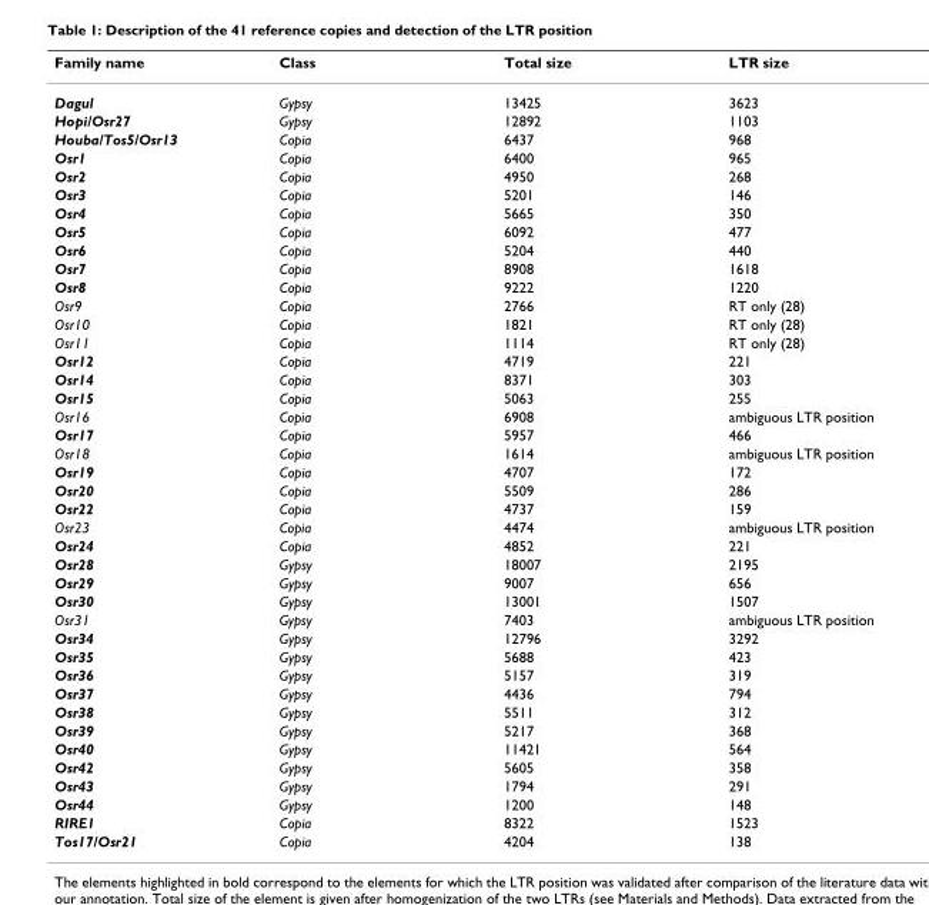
<table><thead><tr><td>Family name</td><td>Class</td><td>Total size</td><td>LTR size</td></tr></thead><tbody><tr><td>Dagul</td><td>Gypsy</td><td>13425</td><td>3623</td></tr><tr><td>Hopi/Osr27</td><td>Gypsy</td><td>12892</td><td>1103</td></tr><tr><td>Houba/Tos5/Osr13</td><td>Copia</td><td>6437</td><td>968</td></tr><tr><td>Osr1</td><td>Copia</td><td>6400</td><td>965</td></tr><tr><td>Osr2</td><td>Copia</td><td>4950</td><td>268</td></tr><tr><td>Osr3</td><td>Copia</td><td>5201</td><td>146</td></tr><tr><td>Osr4</td><td>Copia</td><td>5665</td><td>350</td></tr><tr><td>Osr5</td><td>Copia</td><td>6092</td><td>477</td></tr><tr><td>Osr6</td><td>Copia</td><td>5204</td><td>440</td></tr><tr><td>Osr7</td><td>Copia</td><td>8908</td><td>1618</td></tr><tr><td>Osr8</td><td>Copia</td><td>9222</td><td>1220</td></tr><tr><td>Osr9</td><td>Copia</td><td>2766</td><td>RT only (28)</td></tr><tr><td>Osr10</td><td>Copia</td><td>1821</td><td>RT only (28)</td></tr><tr><td>Osr11</td><td>Copia</td><td>1114</td><td>RT only (28)</td></tr><tr><td>Osr12</td><td>Copia</td><td>4719</td><td>221</td></tr><tr><td>Osr14</td><td>Copia</td><td>8371</td><td>303</td></tr><tr><td>Osr15</td><td>Copia</td><td>5063</td><td>255</td></tr><tr><td>Osr16</td><td>Copia</td><td>6908</td><td>ambiguous LTR position</td></tr><tr><td>Osr17</td><td>Copia</td><td>5957</td><td>466</td></tr><tr><td>Osr18</td><td>Copia</td><td>1614</td><td>ambiguous LTR position</td></tr><tr><td>Osr19</td><td>Copia</td><td>4707</td><td>172</td></tr><tr><td>Osr20</td><td>Copia</td><td>5509</td><td>286</td></tr><tr><td>Osr22</td><td>Copia</td><td>4737</td><td>159</td></tr><tr><td>Osr23</td><td>Copia</td><td>4474</td><td>ambiguous LTR position</td></tr><tr><td>Osr24</td><td>Copia</td><td>4852</td><td>221</td></tr><tr><td>Osr28</td><td>Gypsy</td><td>18007</td><td>2195</td></tr><tr><td>Osr29</td><td>Gypsy</td><td>9007</td><td>656</td></tr><tr><td>Osr30</td><td>Gypsy</td><td>13001</td><td>1507</td></tr><tr><td>Osr31</td><td>Gypsy</td><td>7403</td><td>ambiguous LTR position</td></tr><tr><td>Osr34</td><td>Gypsy</td><td>12796</td><td>3292</td></tr><tr><td>Osr35</td><td>Gypsy</td><td>5688</td><td>423</td></tr><tr><td>Osr36</td><td>Gypsy</td><td>5157</td><td>319</td></tr><tr><td>Osr37</td><td>Gypsy</td><td>4436</td><td>794</td></tr><tr><td>Osr38</td><td>Gypsy</td><td>5511</td><td>312</td></tr><tr><td>Osr39</td><td>Gypsy</td><td>5217</td><td>368</td></tr><tr><td>Osr40</td><td>Gypsy</td><td>11421</td><td>564</td></tr><tr><td>Osr42</td><td>Gypsy</td><td>5605</td><td>358</td></tr><tr><td>Osr43</td><td>Gypsy</td><td>1794</td><td>291</td></tr><tr><td>Osr44</td><td>Gypsy</td><td>1200</td><td>148</td></tr><tr><td>RIRE1</td><td>Copia</td><td>8322</td><td>1523</td></tr><tr><td>Tos17/Osr21</td><td>Copia</td><td>4204</td><td>138</td></tr></tbody></table>